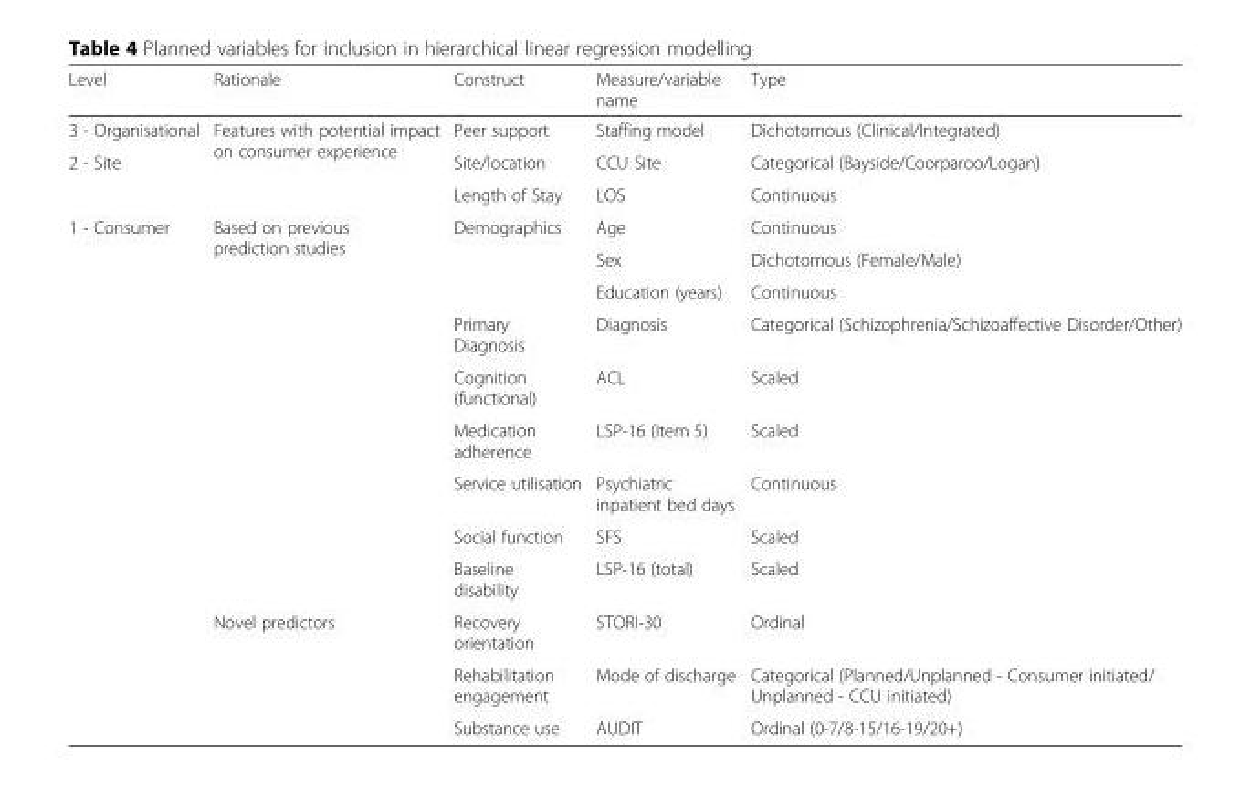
<table><thead><tr><td>Level</td><td>Rationale</td><td>Construct</td><td>Measure/variable name</td><td>Type</td></tr></thead><tbody><tr><td>3 - Organisational</td><td rowspan="3">Features with potential impact on consumer experience</td><td>Peer support</td><td>Staffing model</td><td>Dichotomous (Clinical/Integrated)</td></tr><tr><td rowspan="2">2 - Site</td><td>Site/location</td><td>CCU Site</td><td>Categorical (Bayside/Coorparoo/Logan)</td></tr><tr><td>Length of Stay</td><td>LOS</td><td>Continuous</td></tr><tr><td rowspan="12">1 - Consumer</td><td rowspan="9">Based on previous prediction studies</td><td rowspan="3">Demographics</td><td>Age</td><td>Continuous</td></tr><tr><td>Sex</td><td>Dichotomous (Female/Male)</td></tr><tr><td>Education (years)</td><td>Continuous</td></tr><tr><td>Primary Diagnosis</td><td>Diagnosis</td><td>Categorical (Schizophrenia/Schizoaffective Disorder/Other)</td></tr><tr><td>Cognition (functional)</td><td>ACL</td><td>Scaled</td></tr><tr><td>Medication adherence</td><td>LSP-16 (Item 5)</td><td>Scaled</td></tr><tr><td>Service utilisation</td><td>Psychiatric inpatient bed days</td><td>Continuous</td></tr><tr><td>Social function</td><td>SFS</td><td>Scaled</td></tr><tr><td>Baseline disability</td><td>LSP-16 (total)</td><td>Scaled</td></tr><tr><td rowspan="3">Novel predictors</td><td>Recovery orientation</td><td>STORI-30</td><td>Ordinal</td></tr><tr><td>Rehabilitation engagement</td><td>Mode of discharge</td><td>Categorical (Planned/Unplanned - Consumer initiated/ Unplanned - CCU initiated)</td></tr><tr><td>Substance use</td><td>AUDIT</td><td>Ordinal (0-7/8-15/16-19/20+)</td></tr></tbody></table>